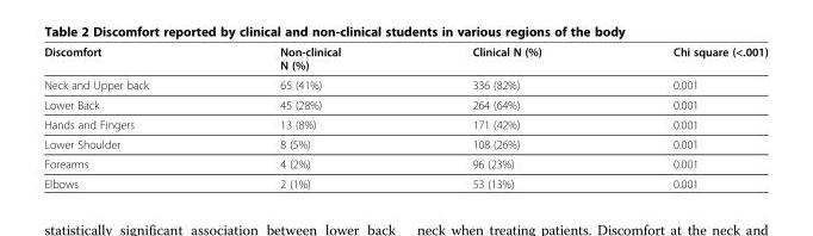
<table><thead><tr><td>Discomfort</td><td>Non-clinical N (%)</td><td>Clinical N (%)</td><td>Chi square (&lt;.001)</td></tr></thead><tbody><tr><td>Neck and Upper back</td><td>65 (41%)</td><td>336 (82%)</td><td>0.001</td></tr><tr><td>Lower Back</td><td>45 (28%)</td><td>264 (64%)</td><td>0.001</td></tr><tr><td>Hands and Fingers</td><td>13 (8%)</td><td>171 (42%)</td><td>0.001</td></tr><tr><td>Lower Shoulder</td><td>8 (5%)</td><td>108 (26%)</td><td>0.001</td></tr><tr><td>Forearms</td><td>4 (2%)</td><td>96 (23%)</td><td>0.001</td></tr><tr><td>Elbows</td><td>2 (1%)</td><td>53 (13%)</td><td>0.001</td></tr></tbody></table>